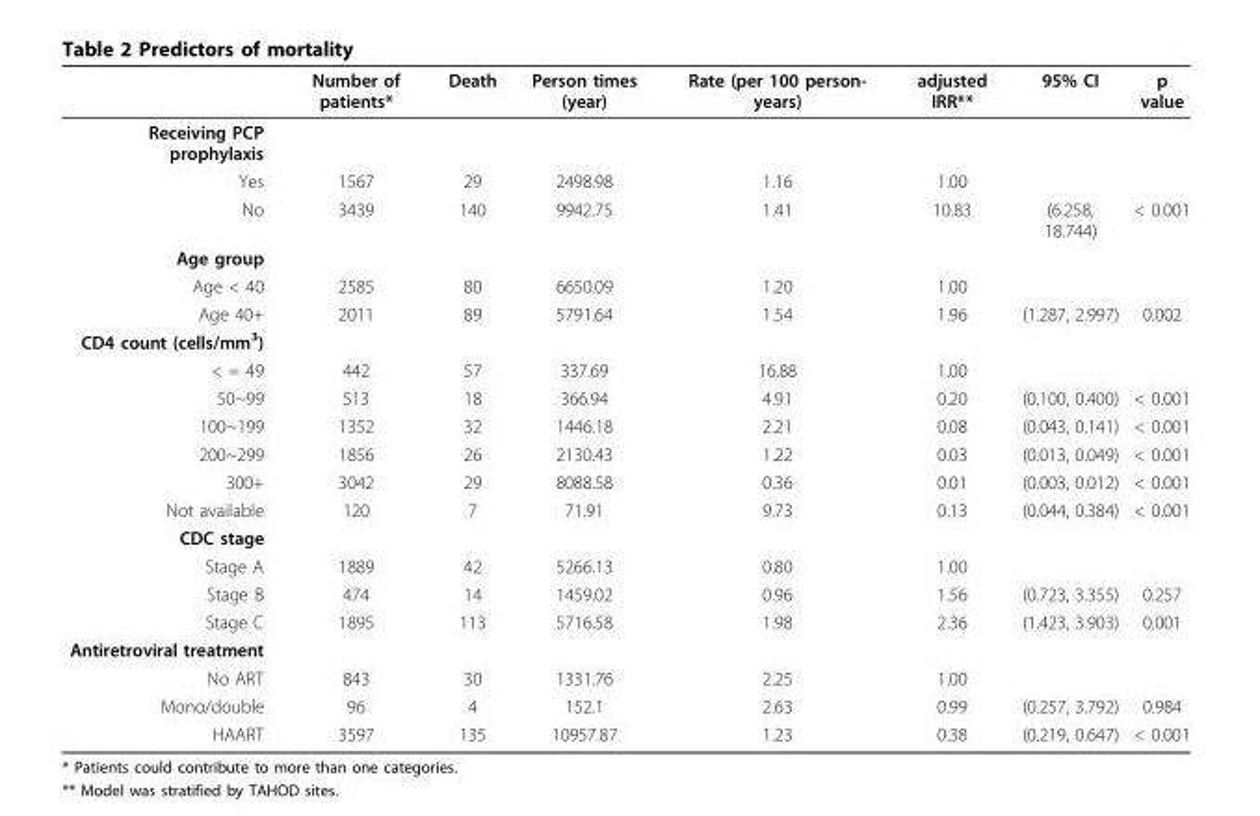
<table><thead><tr><td></td><td>Number of patients*</td><td>Death</td><td>Person times (year)</td><td>Rate (per 100 person- years)</td><td>adjusted IRR**</td><td>95% CI</td><td>p value</td></tr></thead><tbody><tr><td colspan="8">Receiving PCP prophylaxis</td></tr><tr><td>Yes</td><td>1567</td><td>29</td><td>2498.98</td><td>1.16</td><td>1.00</td><td></td><td></td></tr><tr><td>No</td><td>3439</td><td>140</td><td>9942.75</td><td>1.41</td><td>10.83</td><td>(6.258, 18.744)</td><td>&lt; 0.001</td></tr><tr><td colspan="8">Age group</td></tr><tr><td>Age &lt; 40</td><td>2585</td><td>80</td><td>6650.09</td><td>1.20</td><td>1.00</td><td></td><td></td></tr><tr><td>Age 40+</td><td>2011</td><td>89</td><td>5791.64</td><td>1.54</td><td>1.96</td><td>(1.287, 2.997)</td><td>0.002</td></tr><tr><td colspan="8">CD4 count (cells/mm<sup>3</sup>)</td></tr><tr><td>&lt; = 49</td><td>442</td><td>57</td><td>337.69</td><td>16.88</td><td>1.00</td><td></td><td></td></tr><tr><td>50~99</td><td>513</td><td>18</td><td>366.94</td><td>4.91</td><td>0.20</td><td>(0.100, 0.400)</td><td>&lt; 0.001</td></tr><tr><td>100~199</td><td>1352</td><td>32</td><td>1446.18</td><td>2.21</td><td>0.08</td><td>(0.043, 0.141)</td><td>&lt; 0.001</td></tr><tr><td>200~299</td><td>1856</td><td>26</td><td>2130.43</td><td>1.22</td><td>0.03</td><td>(0.013, 0.049)</td><td>&lt; 0.001</td></tr><tr><td>300+</td><td>3042</td><td>29</td><td>8088.58</td><td>0.36</td><td>0.01</td><td>(0.003, 0.012)</td><td>&lt; 0.001</td></tr><tr><td>Not available</td><td>120</td><td>7</td><td>71.91</td><td>9.73</td><td>0.13</td><td>(0.044, 0.384)</td><td>&lt; 0.001</td></tr><tr><td colspan="8">CDC stage</td></tr><tr><td>Stage A</td><td>1889</td><td>42</td><td>5266.13</td><td>0.80</td><td>1.00</td><td></td><td></td></tr><tr><td>Stage B</td><td>474</td><td>14</td><td>1459.02</td><td>0.96</td><td>1.56</td><td>(0.723, 3.355)</td><td>0.257</td></tr><tr><td>Stage C</td><td>1895</td><td>113</td><td>5716.58</td><td>1.98</td><td>2.36</td><td>(1.423, 3.903)</td><td>0.001</td></tr><tr><td colspan="8">Antiretroviral treatment</td></tr><tr><td>No ART</td><td>843</td><td>30</td><td>1331.76</td><td>2.25</td><td>1.00</td><td></td><td></td></tr><tr><td>Mono/double</td><td>96</td><td>4</td><td>152.1</td><td>2.63</td><td>0.99</td><td>(0.257, 3.792)</td><td>0.984</td></tr><tr><td>HAART</td><td>3597</td><td>135</td><td>10957.87</td><td>1.23</td><td>0.38</td><td>(0.219, 0.647)</td><td>&lt; 0.001</td></tr></tbody></table>